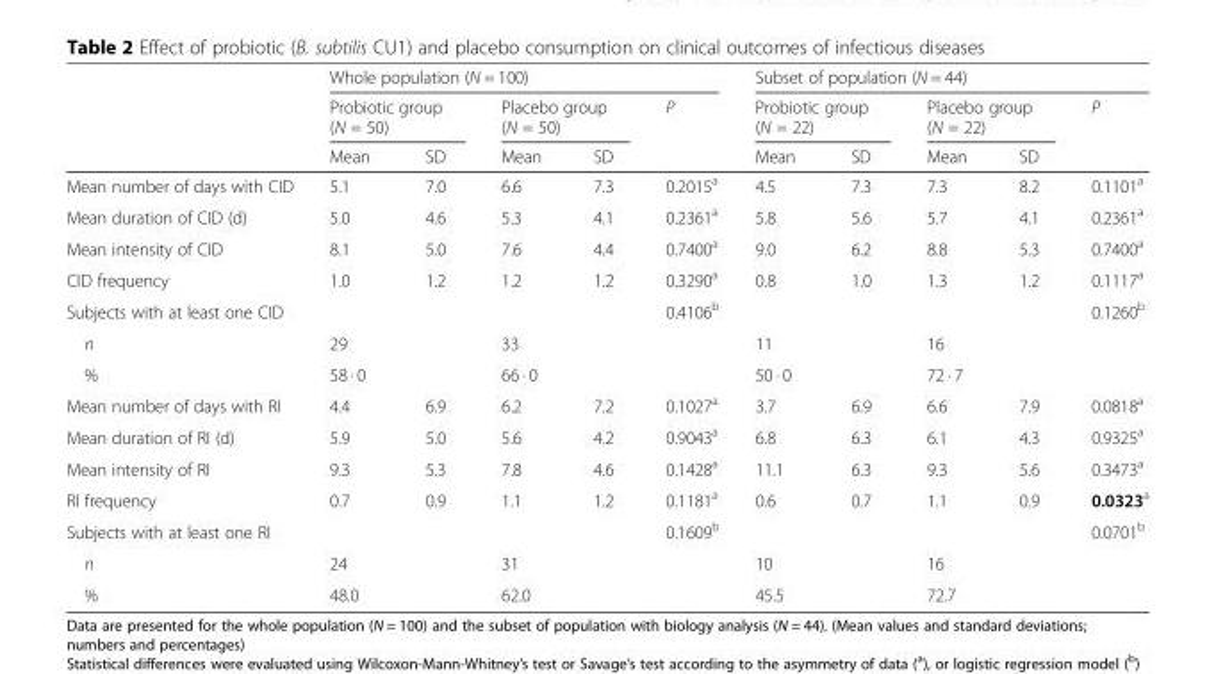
<table><thead><tr><td rowspan="3"></td><td colspan="5">Whole population (N = 100)</td><td colspan="5">Subset of population (N = 44)</td></tr><tr><td colspan="2">Probiotic group (N = 50)</td><td colspan="2">Placebo group (N = 50)</td><td rowspan="2">P</td><td colspan="2">Probiotic group (N = 22)</td><td colspan="2">Placebo group (N = 22)</td><td rowspan="2">P</td></tr><tr><td>Mean</td><td>SD</td><td>Mean</td><td>SD</td><td>Mean</td><td>SD</td><td>Mean</td><td>SD</td></tr></thead><tbody><tr><td>Mean number of days with CID</td><td>5.1</td><td>7.0</td><td>6.6</td><td>7.3</td><td>0.2015<sup>a</sup></td><td>4.5</td><td>7.3</td><td>7.3</td><td>8.2</td><td>0.1101<sup>a</sup></td></tr><tr><td>Mean duration of CID (d)</td><td>5.0</td><td>4.6</td><td>5.3</td><td>4.1</td><td>0.2361<sup>a</sup></td><td>5.8</td><td>5.6</td><td>5.7</td><td>4.1</td><td>0.2361<sup>a</sup></td></tr><tr><td>Mean intensity of CID</td><td>8.1</td><td>5.0</td><td>7.6</td><td>4.4</td><td>0.7400<sup>a</sup></td><td>9.0</td><td>6.2</td><td>8.8</td><td>5.3</td><td>0.7400<sup>a</sup></td></tr><tr><td>CID frequency</td><td>1.0</td><td>1.2</td><td>1.2</td><td>1.2</td><td>0.3290<sup>a</sup></td><td>0.8</td><td>1.0</td><td>1.3</td><td>1.2</td><td>0.1117<sup>a</sup></td></tr><tr><td>Subjects with at least one CID</td><td></td><td></td><td></td><td></td><td>0.4106<sup>b</sup></td><td></td><td></td><td></td><td></td><td>0.1260<sup>b</sup></td></tr><tr><td>n</td><td colspan="2">29</td><td colspan="2">33</td><td></td><td colspan="2">11</td><td colspan="2">16</td><td></td></tr><tr><td>%</td><td colspan="2">58 · 0</td><td colspan="2">66 · 0</td><td></td><td colspan="2">50 · 0</td><td colspan="2">72 · 7</td><td></td></tr><tr><td>Mean number of days with RI</td><td>4.4</td><td>6.9</td><td>6.2</td><td>7.2</td><td>0.1027<sup>a</sup></td><td>3.7</td><td>6.9</td><td>6.6</td><td>7.9</td><td>0.0818<sup>a</sup></td></tr><tr><td>Mean duration of RI (d)</td><td>5.9</td><td>5.0</td><td>5.6</td><td>4.2</td><td>0.9043<sup>a</sup></td><td>6.8</td><td>6.3</td><td>6.1</td><td>4.3</td><td>0.9325<sup>a</sup></td></tr><tr><td>Mean intensity of RI</td><td>9.3</td><td>5.3</td><td>7.8</td><td>4.6</td><td>0.1428<sup>a</sup></td><td>11.1</td><td>6.3</td><td>9.3</td><td>5.6</td><td>0.3473<sup>a</sup></td></tr><tr><td>RI frequency</td><td>0.7</td><td>0.9</td><td>1.1</td><td>1.2</td><td>0.1181<sup>a</sup></td><td>0.6</td><td>0.7</td><td>1.1</td><td>0.9</td><td>0.0323<sup>a</sup></td></tr><tr><td>Subjects with at least one RI</td><td></td><td></td><td></td><td></td><td>0.1609<sup>b</sup></td><td></td><td></td><td></td><td></td><td>0.0701<sup>b</sup></td></tr><tr><td>n</td><td colspan="2">24</td><td colspan="2">31</td><td></td><td colspan="2">10</td><td colspan="2">16</td><td></td></tr><tr><td>%</td><td colspan="2">48.0</td><td colspan="2">62.0</td><td></td><td colspan="2">45.5</td><td colspan="2">72.7</td><td></td></tr></tbody></table>